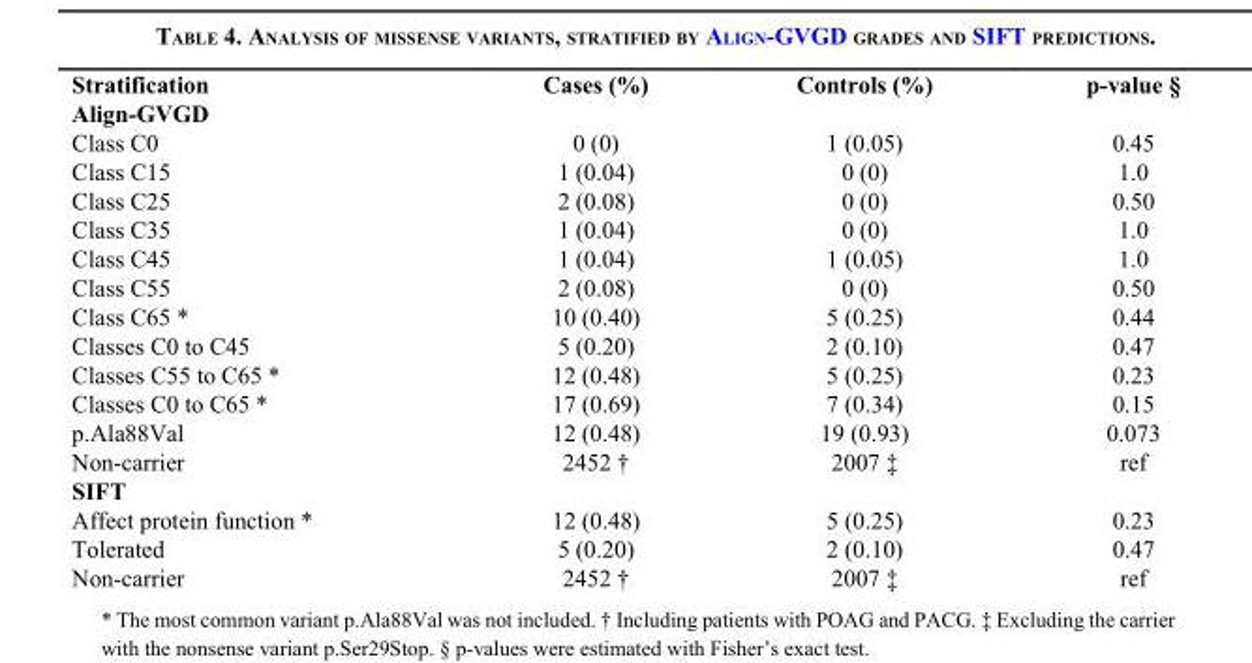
<table><thead><tr><td>Stratification</td><td>Cases (%)</td><td>Controls (%)</td><td>p-value §</td></tr></thead><tbody><tr><td colspan="4">Align-GVGD</td></tr><tr><td>Class C0</td><td>0 (0)</td><td>1 (0.05)</td><td>0.45</td></tr><tr><td>Class C15</td><td>1 (0.04)</td><td>0 (0)</td><td>1.0</td></tr><tr><td>Class C25</td><td>2 (0.08)</td><td>0 (0)</td><td>0.50</td></tr><tr><td>Class C35</td><td>1 (0.04)</td><td>0 (0)</td><td>1.0</td></tr><tr><td>Class C45</td><td>1 (0.04)</td><td>1 (0.05)</td><td>1.0</td></tr><tr><td>Class C55</td><td>2 (0.08)</td><td>0 (0)</td><td>0.50</td></tr><tr><td>Class C65 *</td><td>10 (0.40)</td><td>5 (0.25)</td><td>0.44</td></tr><tr><td>Classes C0 to C45</td><td>5 (0.20)</td><td>2 (0.10)</td><td>0.47</td></tr><tr><td>Classes C55 to C65 *</td><td>12 (0.48)</td><td>5 (0.25)</td><td>0.23</td></tr><tr><td>Classes C0 to C65 *</td><td>17 (0.69)</td><td>7 (0.34)</td><td>0.15</td></tr><tr><td>p.Ala88Val</td><td>12 (0.48)</td><td>19 (0.93)</td><td>0.073</td></tr><tr><td>Non-carrier</td><td>2452 †</td><td>2007 ‡</td><td>ref</td></tr><tr><td colspan="4">SIFT</td></tr><tr><td>Affect protein function *</td><td>12 (0.48)</td><td>5 (0.25)</td><td>0.23</td></tr><tr><td>Tolerated</td><td>5 (0.20)</td><td>2 (0.10)</td><td>0.47</td></tr><tr><td>Non-carrier</td><td>2452 †</td><td>2007 ‡</td><td>ref</td></tr></tbody></table>